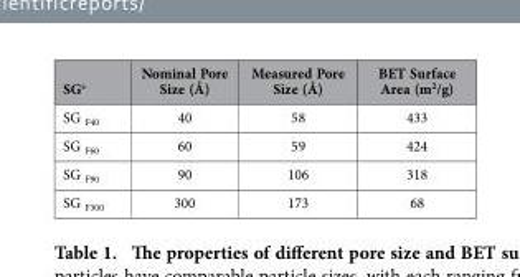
<table><thead><tr><td>SG<sup>a</sup></td><td>Nominal Pore Size (Å)</td><td>Measured Pore Size (Å)</td><td>BET Surface Area (m<sup>2</sup>/g)</td></tr></thead><tbody><tr><td>SG <sub>F40</sub></td><td>40</td><td>58</td><td>433</td></tr><tr><td>SG <sub>F60</sub></td><td>60</td><td>59</td><td>424</td></tr><tr><td>SG <sub>F90</sub></td><td>90</td><td>106</td><td>318</td></tr><tr><td>SG <sub>F300</sub></td><td>300</td><td>173</td><td>68</td></tr></tbody></table>